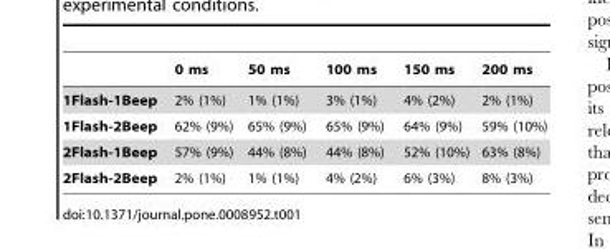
<table><thead><tr><td></td><td>0 ms</td><td>50 ms</td><td>100 ms</td><td>150 ms</td><td>200 ms</td></tr></thead><tbody><tr><td>1Flash-1Beep</td><td>2% (1%)</td><td>1% (1%)</td><td>3% (1%)</td><td>4% (2%)</td><td>2% (1%)</td></tr><tr><td>1Flash-2Beep</td><td>62% (9%)</td><td>65% (9%)</td><td>65% (9%)</td><td>64% (9%)</td><td>59% (10%)</td></tr><tr><td>2Flash-1Beep</td><td>57% (9%)</td><td>44% (8%)</td><td>44% (8%)</td><td>52% (10%)</td><td>63% (8%)</td></tr><tr><td>2Flash-2Beep</td><td>2% (1%)</td><td>1% (1%)</td><td>4% (2%)</td><td>6% (3%)</td><td>8% (3%)</td></tr></tbody></table>